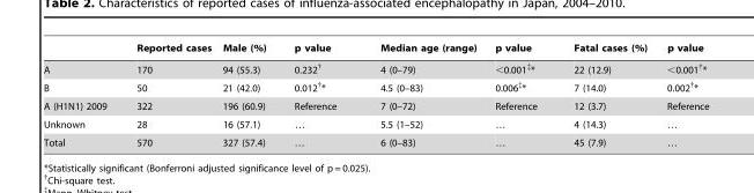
<table><thead><tr><td></td><td>Reported cases</td><td>Male (%)</td><td>p value</td><td>Median age (range)</td><td>p value</td><td>Fatal cases (%)</td><td>p value</td></tr></thead><tbody><tr><td>A</td><td>170</td><td>94 (55.3)</td><td>0.232†</td><td>4 (0–79)</td><td>&lt;0.001‡*</td><td>22 (12.9)</td><td>&lt;0.001†*</td></tr><tr><td>B</td><td>50</td><td>21 (42.0)</td><td>0.012†*</td><td>4.5 (0–83)</td><td>0.006‡*</td><td>7 (14.0)</td><td>0.002†*</td></tr><tr><td>A (H1N1) 2009</td><td>322</td><td>196 (60.9)</td><td>Reference</td><td>7 (0–72)</td><td>Reference</td><td>12 (3.7)</td><td>Reference</td></tr><tr><td>Unknown</td><td>28</td><td>16 (57.1)</td><td>…</td><td>5.5 (1–52)</td><td>…</td><td>4 (14.3)</td><td>…</td></tr><tr><td>Total</td><td>570</td><td>327 (57.4)</td><td>…</td><td>6 (0–83)</td><td>…</td><td>45 (7.9)</td><td>…</td></tr></tbody></table>